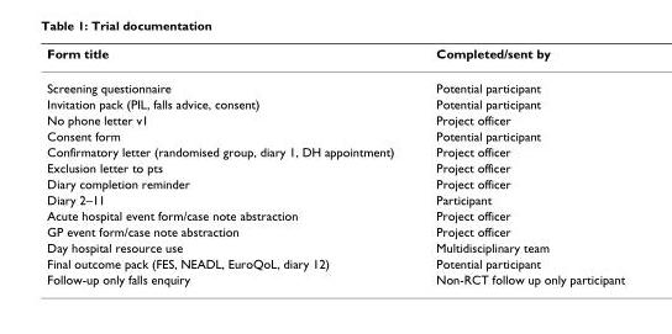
<table><thead><tr><td>Form title</td><td>Completed/sent by</td></tr></thead><tbody><tr><td>Screening questionnaire</td><td>Potential participant</td></tr><tr><td>Invitation pack (PIL, falls advice, consent)</td><td>Potential participant</td></tr><tr><td>No phone letter v1</td><td>Project officer</td></tr><tr><td>Consent form</td><td>Potential participant</td></tr><tr><td>Confirmatory letter (randomised group, diary 1, DH appointment)</td><td>Project officer</td></tr><tr><td>Exclusion letter to pts</td><td>Project officer</td></tr><tr><td>Diary completion reminder</td><td>Project officer</td></tr><tr><td>Diary 2–11</td><td>Participant</td></tr><tr><td>Acute hospital event form/case note abstraction</td><td>Project officer</td></tr><tr><td>GP event form/case note abstraction</td><td>Project officer</td></tr><tr><td>Day hospital resource use</td><td>Multidisciplinary team</td></tr><tr><td>Final outcome pack (FES, NEADL, EuroQoL, diary 12)</td><td>Potential participant</td></tr><tr><td>Follow-up only falls enquiry</td><td>Non-RCT follow up only participant</td></tr></tbody></table>